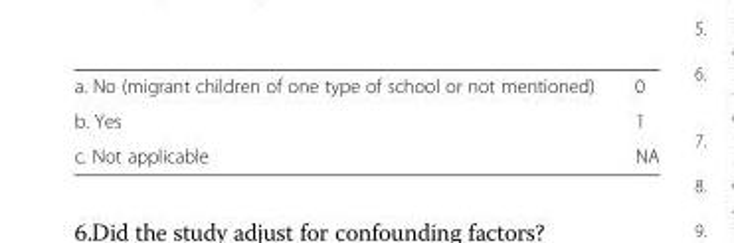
<table><tbody><tr><td>a. No (migrant children of one type of school or not mentioned)</td><td>0</td></tr><tr><td>b. Yes</td><td>1</td></tr><tr><td>c. Not applicable</td><td>NA</td></tr></tbody></table>